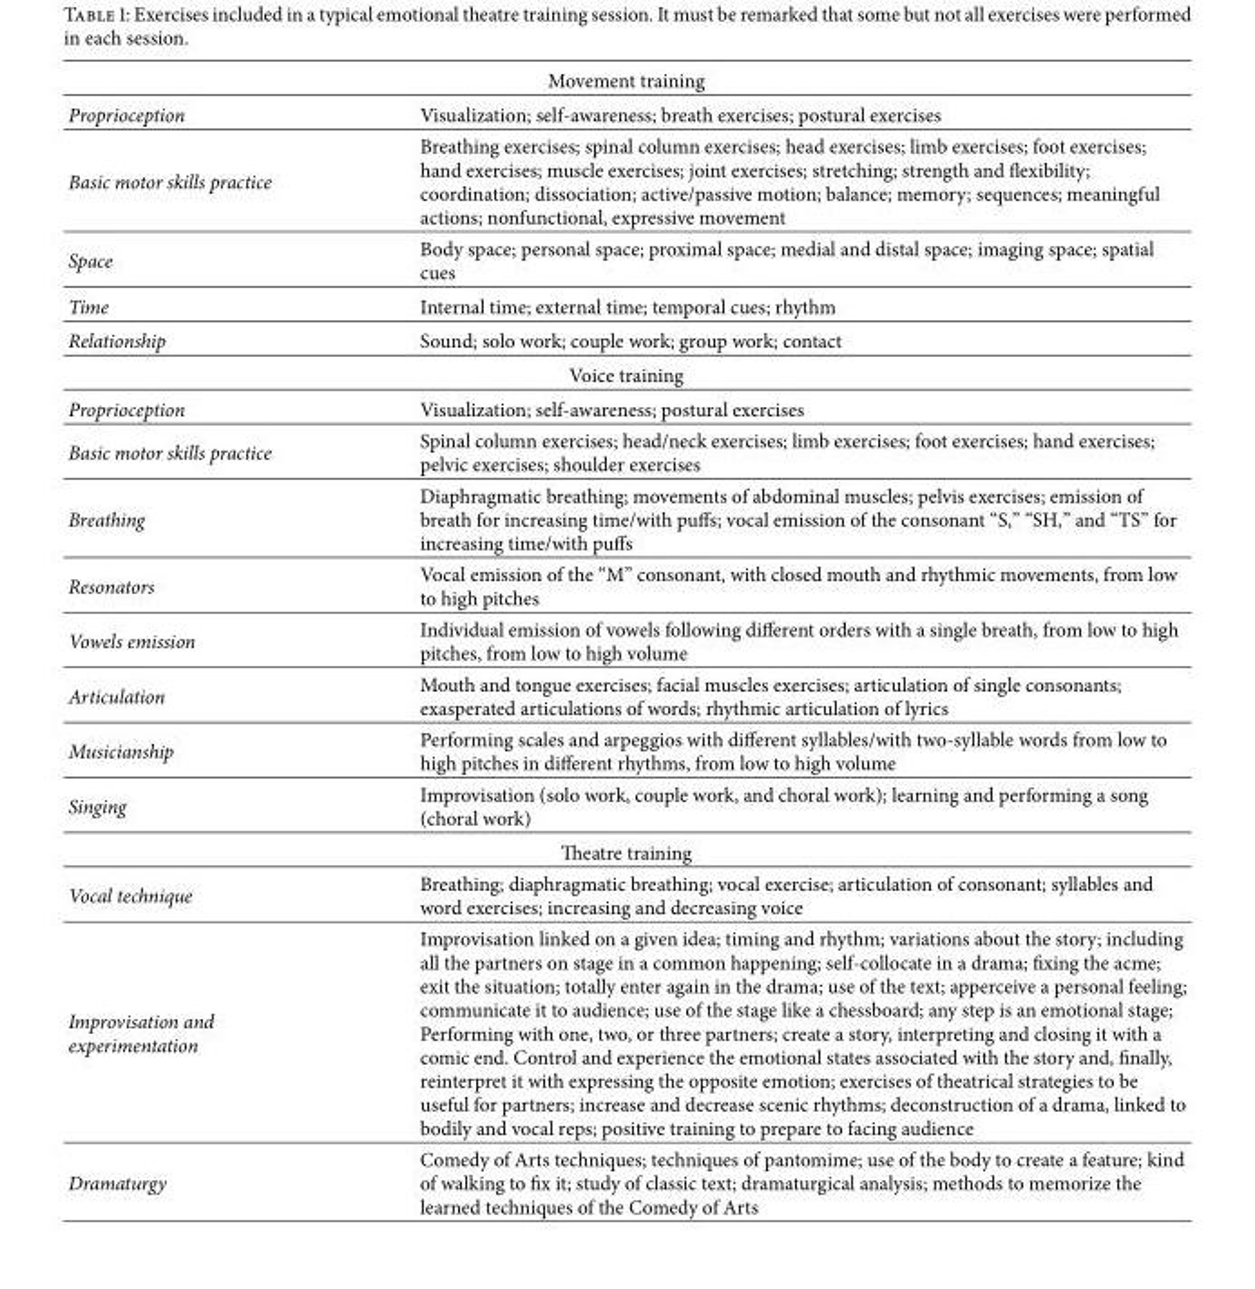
<table><tbody><tr><td colspan="2">Movement training</td></tr><tr><td>Proprioception</td><td>Visualization; self-awareness; breath exercises; postural exercises</td></tr><tr><td>Basic motor skills practice</td><td>Breathing exercises; spinal column exercises; head exercises; limb exercises; foot exercises; hand exercises; muscle exercises; joint exercises; stretching; strength and flexibility; coordination; dissociation; active/passive motion; balance; memory; sequences; meaningful actions; nonfunctional, expressive movement</td></tr><tr><td>Space</td><td>Body space; personal space; proximal space; medial and distal space; imaging space; spatial cues</td></tr><tr><td>Time</td><td>Internal time; external time; temporal cues; rhythm</td></tr><tr><td>Relationship</td><td>Sound; solo work; couple work; group work; contact</td></tr><tr><td colspan="2">Voice training</td></tr><tr><td>Proprioception</td><td>Visualization; self-awareness; postural exercises</td></tr><tr><td>Basic motor skills practice</td><td>Spinal column exercises; head/neck exercises; limb exercises; foot exercises; hand exercises; pelvic exercises; shoulder exercises</td></tr><tr><td>Breathing</td><td>Diaphragmatic breathing; movements of abdominal muscles; pelvis exercises; emission of breath for increasing time/with puffs; vocal emission of the consonant “S,” “SH,” and “TS” for increasing time/with puffs</td></tr><tr><td>Resonators</td><td>Vocal emission of the “M” consonant, with closed mouth and rhythmic movements, from low to high pitches</td></tr><tr><td>Vowels emission</td><td>Individual emission of vowels following different orders with a single breath, from low to high pitches, from low to high volume</td></tr><tr><td>Articulation</td><td>Mouth and tongue exercises; facial muscles exercises; articulation of single consonants; exasperated articulations of words; rhythmic articulation of lyrics</td></tr><tr><td>Musicianship</td><td>Performing scales and arpeggios with different syllables/with two-syllable words from low to high pitches in different rhythms, from low to high volume</td></tr><tr><td>Singing</td><td>Improvisation (solo work, couple work, and choral work); learning and performing a song (choral work)</td></tr><tr><td colspan="2">Theatre training</td></tr><tr><td>Vocal technique</td><td>Breathing; diaphragmatic breathing; vocal exercise; articulation of consonant; syllables and word exercises; increasing and decreasing voice</td></tr><tr><td>Improvisation and experimentation</td><td>Improvisation linked on a given idea; timing and rhythm; variations about the story; including all the partners on stage in a common happening; self-collocate in a drama; fixing the acme; exit the situation; totally enter again in the drama; use of the text; apperceive a personal feeling; communicate it to audience; use of the stage like a chessboard; any step is an emotional stage; Performing with one, two, or three partners; create a story, interpreting and closing it with a comic end. Control and experience the emotional states associated with the story and, finally, reinterpret it with expressing the opposite emotion; exercises of theatrical strategies to be useful for partners; increase and decrease scenic rhythms; deconstruction of a drama, linked to bodily and vocal reps; positive training to prepare to facing audience</td></tr><tr><td>Dramaturgy</td><td>Comedy of Arts techniques; techniques of pantomime; use of the body to create a feature; kind of walking to fix it; study of classic text; dramaturgical analysis; methods to memorize the learned techniques of the Comedy of Arts</td></tr></tbody></table>